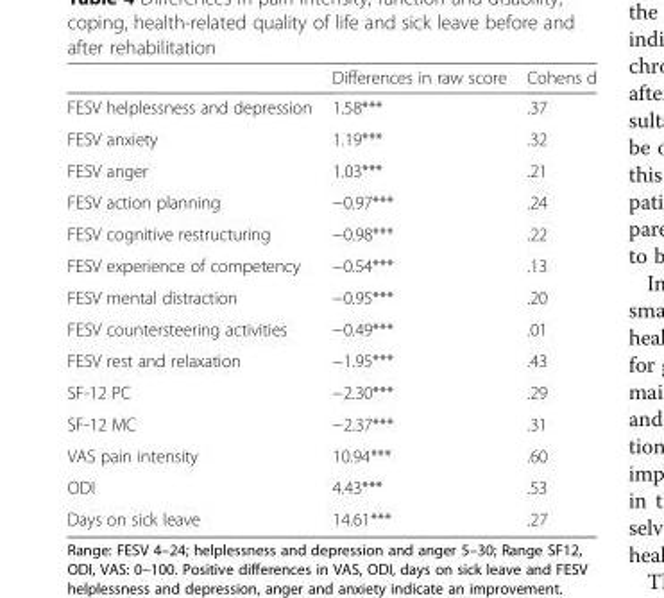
<table><thead><tr><td></td><td>Differences in raw score</td><td>Cohens d</td></tr></thead><tbody><tr><td>FESV helplessness and depression</td><td>1.58***</td><td>.37</td></tr><tr><td>FESV anxiety</td><td>1.19***</td><td>.32</td></tr><tr><td>FESV anger</td><td>1.03***</td><td>.21</td></tr><tr><td>FESV action planning</td><td>−0.97***</td><td>.24</td></tr><tr><td>FESV cognitive restructuring</td><td>−0.98***</td><td>.22</td></tr><tr><td>FESV experience of competency</td><td>−0.54***</td><td>.13</td></tr><tr><td>FESV mental distraction</td><td>−0.95***</td><td>.20</td></tr><tr><td>FESV countersteering activities</td><td>−0.49***</td><td>.01</td></tr><tr><td>FESV rest and relaxation</td><td>−1.95***</td><td>.43</td></tr><tr><td>SF-12 PC</td><td>−2.30***</td><td>.29</td></tr><tr><td>SF-12 MC</td><td>−2.37***</td><td>.31</td></tr><tr><td>VAS pain intensity</td><td>10.94***</td><td>.60</td></tr><tr><td>ODI</td><td>4.43***</td><td>.53</td></tr><tr><td>Days on sick leave</td><td>14.61***</td><td>.27</td></tr></tbody></table>